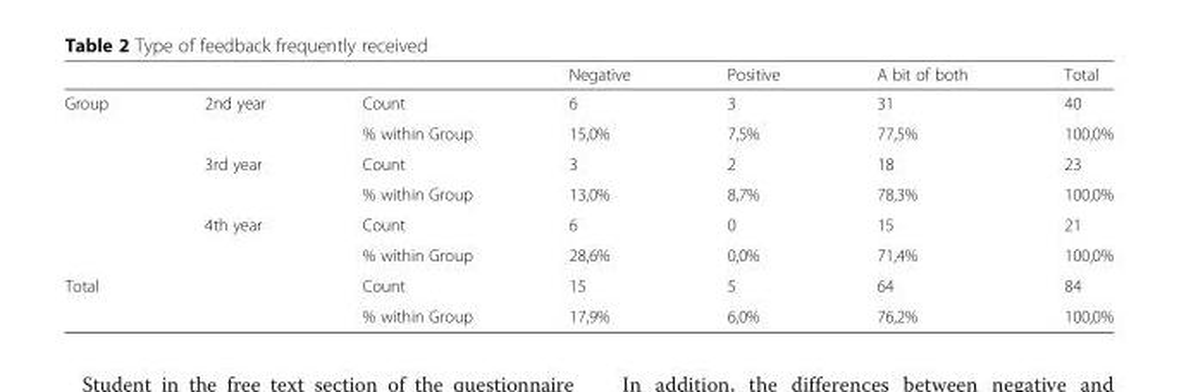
<table><thead><tr><td></td><td></td><td></td><td>Negative</td><td>Positive</td><td>A bit of both</td><td>Total</td></tr></thead><tbody><tr><td rowspan="6">Group</td><td rowspan="2">2nd year</td><td>Count</td><td>6</td><td>3</td><td>31</td><td>40</td></tr><tr><td>% within Group</td><td>15,0%</td><td>7,5%</td><td>77,5%</td><td>100,0%</td></tr><tr><td rowspan="2">3rd year</td><td>Count</td><td>3</td><td>2</td><td>18</td><td>23</td></tr><tr><td>% within Group</td><td>13,0%</td><td>8,7%</td><td>78,3%</td><td>100,0%</td></tr><tr><td rowspan="2">4th year</td><td>Count</td><td>6</td><td>0</td><td>15</td><td>21</td></tr><tr><td>% within Group</td><td>28,6%</td><td>0,0%</td><td>71,4%</td><td>100,0%</td></tr><tr><td rowspan="2" colspan="2">Total</td><td>Count</td><td>15</td><td>5</td><td>64</td><td>84</td></tr><tr><td>% within Group</td><td>17,9%</td><td>6,0%</td><td>76,2%</td><td>100,0%</td></tr></tbody></table>